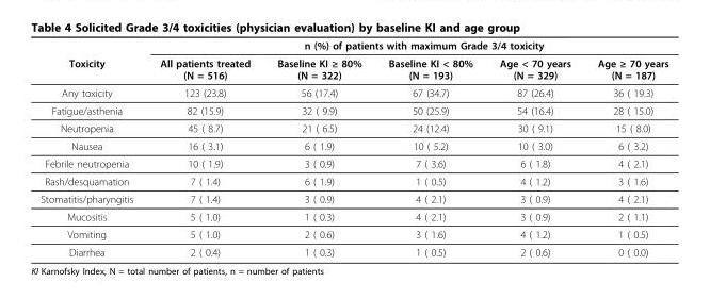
<table><thead><tr><td rowspan="2">Toxicity</td><td rowspan="2">All patients treated (N = 516)</td><td colspan="3">n (%) of patients with maximum Grade 3/4 toxicity</td><td rowspan="2">Age ≥ 70 years (N = 187)</td></tr><tr><td>Baseline KI ≥ 80% (N = 322)</td><td>Baseline KI &lt; 80% (N = 193)</td><td>Age &lt; 70 years (N = 329)</td></tr></thead><tbody><tr><td>Any toxicity</td><td>123 (23.8)</td><td>56 (17.4)</td><td>67 (34.7)</td><td>87 (26.4)</td><td>36 ( 19.3)</td></tr><tr><td>Fatigue/asthenia</td><td>82 (15.9)</td><td>32 ( 9.9)</td><td>50 (25.9)</td><td>54 (16.4)</td><td>28 ( 15.0)</td></tr><tr><td>Neutropenia</td><td>45 ( 8.7)</td><td>21 ( 6.5)</td><td>24 (12.4)</td><td>30 ( 9.1)</td><td>15 ( 8.0)</td></tr><tr><td>Nausea</td><td>16 ( 3.1)</td><td>6 ( 1.9)</td><td>10 ( 5.2)</td><td>10 ( 3.0)</td><td>6 ( 3.2)</td></tr><tr><td>Febrile neutropenia</td><td>10 ( 1.9)</td><td>3 ( 0.9)</td><td>7 ( 3.6)</td><td>6 ( 1.8)</td><td>4 ( 2.1)</td></tr><tr><td>Rash/desquamation</td><td>7 ( 1.4)</td><td>6 ( 1.9)</td><td>1 ( 0.5)</td><td>4 ( 1.2)</td><td>3 ( 1.6)</td></tr><tr><td>Stomatitis/pharyngitis</td><td>7 ( 1.4)</td><td>3 ( 0.9)</td><td>4 ( 2.1)</td><td>3 ( 0.9)</td><td>4 ( 2.1)</td></tr><tr><td>Mucositis</td><td>5 ( 1.0)</td><td>1 ( 0.3)</td><td>4 ( 2.1)</td><td>3 ( 0.9)</td><td>2 ( 1.1)</td></tr><tr><td>Vomiting</td><td>5 ( 1.0)</td><td>2 ( 0.6)</td><td>3 ( 1.6)</td><td>4 ( 1.2)</td><td>1 ( 0.5)</td></tr><tr><td>Diarrhea</td><td>2 ( 0.4)</td><td>1 ( 0.3)</td><td>1 ( 0.5)</td><td>2 ( 0.6)</td><td>0 ( 0.0)</td></tr></tbody></table>